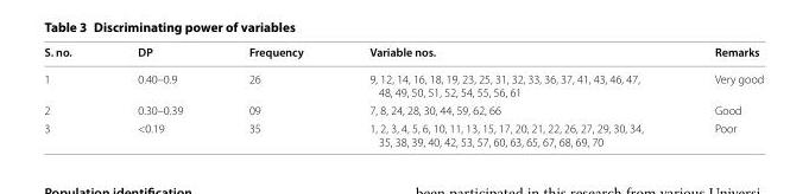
<table><thead><tr><td>S. no.</td><td>DP</td><td>Frequency</td><td>Variable nos.</td><td>Remarks</td></tr></thead><tbody><tr><td>1</td><td>0.40–0.9</td><td>26</td><td>9, 12, 14, 16, 18, 19, 23, 25, 31, 32, 33, 36, 37, 41, 43, 46, 47, 48, 49, 50, 51, 52, 54, 55, 56, 61</td><td>Very good</td></tr><tr><td>2</td><td>0.30–0.39</td><td>09</td><td>7, 8, 24, 28, 30, 44, 59, 62, 66</td><td>Good</td></tr><tr><td>3</td><td>&lt;0.19</td><td>35</td><td>1, 2, 3, 4, 5, 6, 10, 11, 13, 15, 17, 20, 21, 22, 26, 27, 29, 30, 34, 35, 38, 39, 40, 42, 53, 57, 60, 63, 65, 67, 68, 69, 70</td><td>Poor</td></tr></tbody></table>